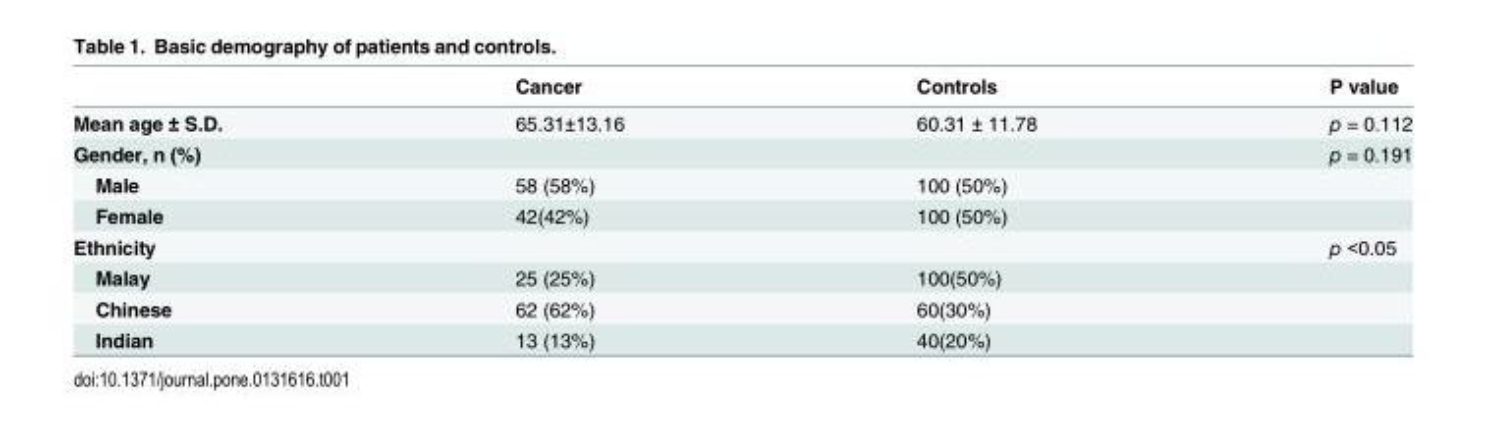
<table><thead><tr><td></td><td>Cancer</td><td>Controls</td><td>P value</td></tr></thead><tbody><tr><td>Mean age ± S.D.</td><td>65.31±13.16</td><td>60.31 ± 11.78</td><td>p = 0.112</td></tr><tr><td>Gender, n (%)</td><td></td><td></td><td>p = 0.191</td></tr><tr><td>Male</td><td>58 (58%)</td><td>100 (50%)</td><td></td></tr><tr><td>Female</td><td>42(42%)</td><td>100 (50%)</td><td></td></tr><tr><td>Ethnicity</td><td></td><td></td><td>p &lt;0.05</td></tr><tr><td>Malay</td><td>25 (25%)</td><td>100(50%)</td><td></td></tr><tr><td>Chinese</td><td>62 (62%)</td><td>60(30%)</td><td></td></tr><tr><td>Indian</td><td>13 (13%)</td><td>40(20%)</td><td></td></tr></tbody></table>